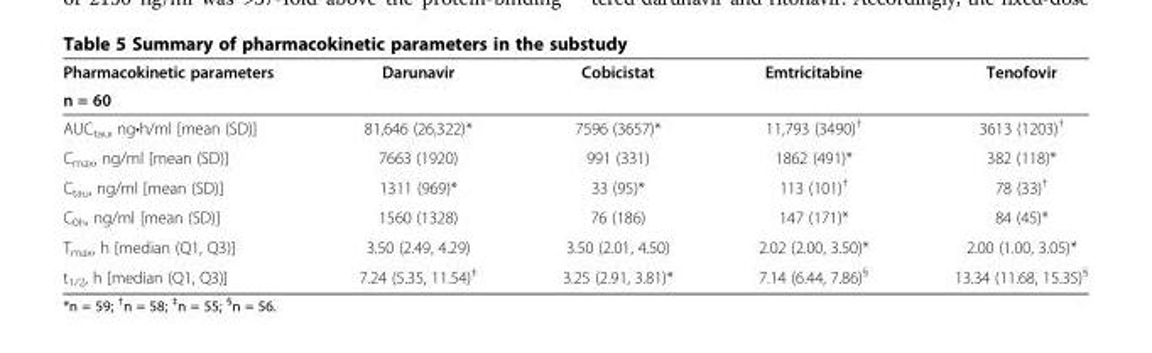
<table><thead><tr><td rowspan="2">Pharmacokinetic parameters n = 60</td><td rowspan="2">Darunavir</td><td rowspan="2">Cobicistat</td><td rowspan="2">Emtricitabine</td><td rowspan="2">Tenofovir</td></tr><tr></tr></thead><tbody><tr><td>AUC<sub>tau</sub>, ng•h/ml [mean (SD)]</td><td>81,646 (26,322)*</td><td>7596 (3657)*</td><td>11,793 (3490)<sup>†</sup></td><td>3613 (1203)<sup>†</sup></td></tr><tr><td>C<sub>max</sub>, ng/ml [mean (SD)]</td><td>7663 (1920)</td><td>991 (331)</td><td>1862 (491)*</td><td>382 (118)*</td></tr><tr><td>C<sub>tau</sub>, ng/ml [mean (SD)]</td><td>1311 (969)*</td><td>33 (95)*</td><td>113 (101)<sup>†</sup></td><td>78 (33)<sup>†</sup></td></tr><tr><td>C<sub>0h</sub>, ng/ml [mean (SD)]</td><td>1560 (1328)</td><td>76 (186)</td><td>147 (171)*</td><td>84 (45)*</td></tr><tr><td>T<sub>max</sub>, h [median (Q1, Q3)]</td><td>3.50 (2.49, 4.29)</td><td>3.50 (2.01, 4.50)</td><td>2.02 (2.00, 3.50)*</td><td>2.00 (1.00, 3.05)*</td></tr><tr><td>t<sub>1/2</sub>, h [median (Q1, Q3)]</td><td>7.24 (5.35, 11.54)<sup>‡</sup></td><td>3.25 (2.91, 3.81)*</td><td>7.14 (6.44, 7.86)<sup>§</sup></td><td>13.34 (11.68, 15.35)<sup>§</sup></td></tr></tbody></table>